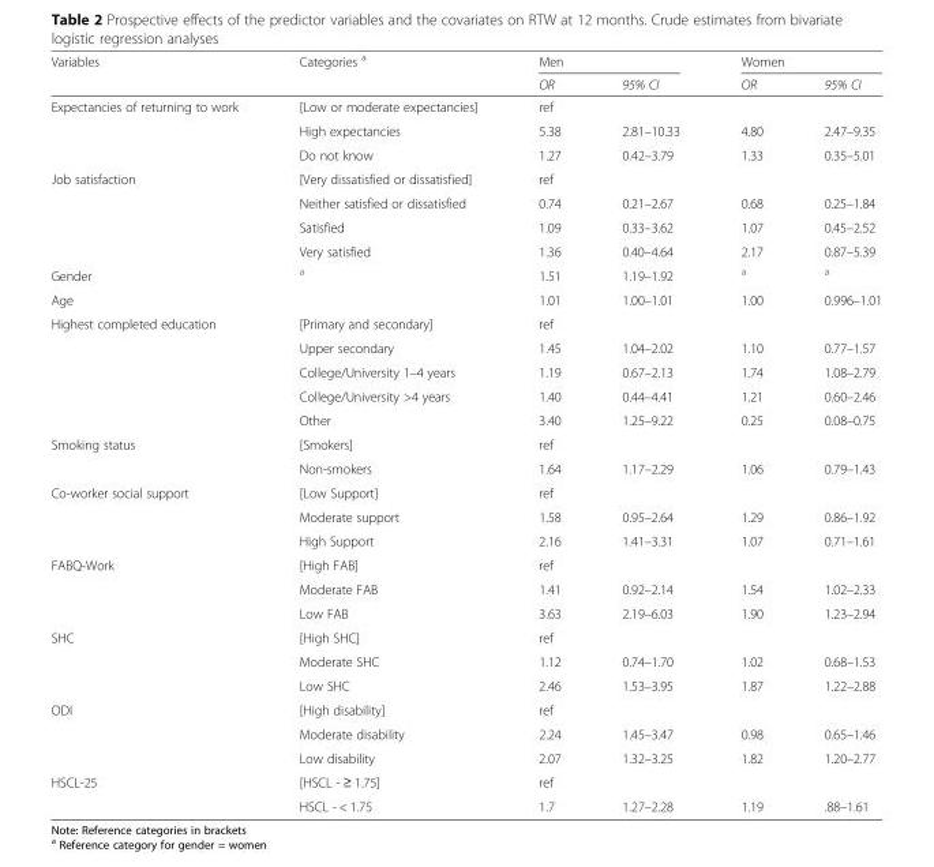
<table><thead><tr><td rowspan="2">Variables</td><td rowspan="2">Categories <sup>a</sup></td><td colspan="2">Men</td><td colspan="2">Women</td></tr><tr><td>OR</td><td>95% CI</td><td>OR</td><td>95% CI</td></tr></thead><tbody><tr><td rowspan="3">Expectancies of returning to work</td><td>[Low or moderate expectancies]</td><td>ref</td><td></td><td></td><td></td></tr><tr><td>High expectancies</td><td>5.38</td><td>2.81–10.33</td><td>4.80</td><td>2.47–9.35</td></tr><tr><td>Do not know</td><td>1.27</td><td>0.42–3.79</td><td>1.33</td><td>0.35–5.01</td></tr><tr><td rowspan="4">Job satisfaction</td><td>[Very dissatisfied or dissatisfied]</td><td>ref</td><td></td><td></td><td></td></tr><tr><td>Neither satisfied or dissatisfied</td><td>0.74</td><td>0.21–2.67</td><td>0.68</td><td>0.25–1.84</td></tr><tr><td>Satisfied</td><td>1.09</td><td>0.33–3.62</td><td>1.07</td><td>0.45–2.52</td></tr><tr><td>Very satisfied</td><td>1.36</td><td>0.40–4.64</td><td>2.17</td><td>0.87–5.39</td></tr><tr><td>Gender</td><td><sup>a</sup></td><td>1.51</td><td>1.19–1.92</td><td><sup>a</sup></td><td><sup>a</sup></td></tr><tr><td>Age</td><td></td><td>1.01</td><td>1.00–1.01</td><td>1.00</td><td>0.996–1.01</td></tr><tr><td rowspan="5">Highest completed education</td><td>[Primary and secondary]</td><td>ref</td><td></td><td></td><td></td></tr><tr><td>Upper secondary</td><td>1.45</td><td>1.04–2.02</td><td>1.10</td><td>0.77–1.57</td></tr><tr><td>College/University 1–4 years</td><td>1.19</td><td>0.67–2.13</td><td>1.74</td><td>1.08–2.79</td></tr><tr><td>College/University &gt;4 years</td><td>1.40</td><td>0.44–4.41</td><td>1.21</td><td>0.60–2.46</td></tr><tr><td>Other</td><td>3.40</td><td>1.25–9.22</td><td>0.25</td><td>0.08–0.75</td></tr><tr><td rowspan="2">Smoking status</td><td>[Smokers]</td><td>ref</td><td></td><td></td><td></td></tr><tr><td>Non-smokers</td><td>1.64</td><td>1.17–2.29</td><td>1.06</td><td>0.79–1.43</td></tr><tr><td rowspan="3">Co-worker social support</td><td>[Low Support]</td><td>ref</td><td></td><td></td><td></td></tr><tr><td>Moderate support</td><td>1.58</td><td>0.95–2.64</td><td>1.29</td><td>0.86–1.92</td></tr><tr><td>High Support</td><td>2.16</td><td>1.41–3.31</td><td>1.07</td><td>0.71–1.61</td></tr><tr><td rowspan="3">FABQ-Work</td><td>[High FAB]</td><td>ref</td><td></td><td></td><td></td></tr><tr><td>Moderate FAB</td><td>1.41</td><td>0.92–2.14</td><td>1.54</td><td>1.02–2.33</td></tr><tr><td>Low FAB</td><td>3.63</td><td>2.19–6.03</td><td>1.90</td><td>1.23–2.94</td></tr><tr><td rowspan="3">SHC</td><td>[High SHC]</td><td>ref</td><td></td><td></td><td></td></tr><tr><td>Moderate SHC</td><td>1.12</td><td>0.74–1.70</td><td>1.02</td><td>0.68–1.53</td></tr><tr><td>Low SHC</td><td>2.46</td><td>1.53–3.95</td><td>1.87</td><td>1.22–2.88</td></tr><tr><td rowspan="3">ODI</td><td>[High disability]</td><td>ref</td><td></td><td></td><td></td></tr><tr><td>Moderate disability</td><td>2.24</td><td>1.45–3.47</td><td>0.98</td><td>0.65–1.46</td></tr><tr><td>Low disability</td><td>2.07</td><td>1.32–3.25</td><td>1.82</td><td>1.20–2.77</td></tr><tr><td rowspan="2">HSCL-25</td><td>[HSCL - ≥ 1.75]</td><td>ref</td><td></td><td></td><td></td></tr><tr><td>HSCL - &lt; 1.75</td><td>1.7</td><td>1.27–2.28</td><td>1.19</td><td>.88–1.61</td></tr></tbody></table>